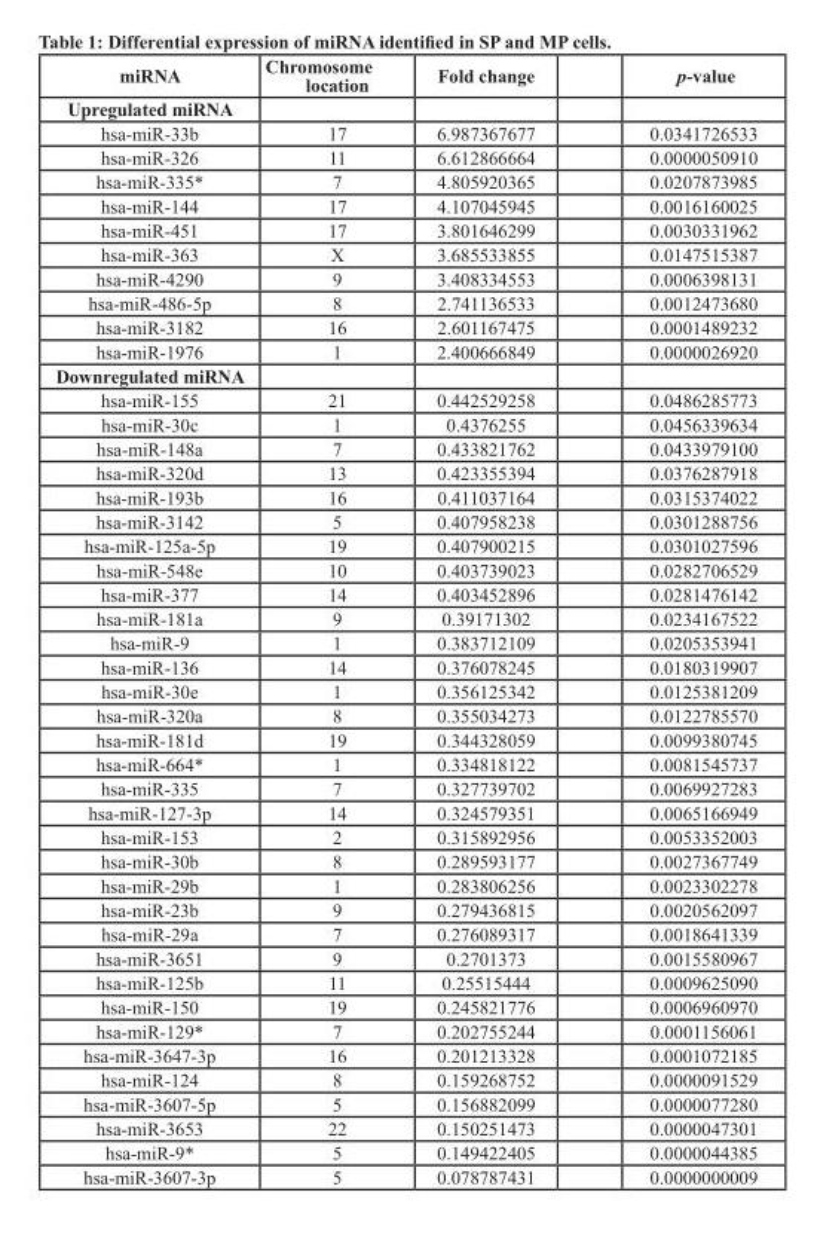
<table><thead><tr><td>miRNA</td><td>Chromosome location</td><td>Fold change</td><td>p-value</td></tr></thead><tbody><tr><td colspan="4">Upregulated miRNA</td></tr><tr><td>hsa-miR-33b</td><td>17</td><td>6.987367677</td><td>0.0341726533</td></tr><tr><td>hsa-miR-326</td><td>11</td><td>6.612866664</td><td>0.0000050910</td></tr><tr><td>hsa-miR-335*</td><td>7</td><td>4.805920365</td><td>0.0207873985</td></tr><tr><td>hsa-miR-144</td><td>17</td><td>4.107045945</td><td>0.0016160025</td></tr><tr><td>hsa-miR-451</td><td>17</td><td>3.801646299</td><td>0.0030331962</td></tr><tr><td>hsa-miR-363</td><td>X</td><td>3.685533855</td><td>0.0147515387</td></tr><tr><td>hsa-miR-4290</td><td>9</td><td>3.408334553</td><td>0.0006398131</td></tr><tr><td>hsa-miR-486-5p</td><td>8</td><td>2.741136533</td><td>0.0012473680</td></tr><tr><td>hsa-miR-3182</td><td>16</td><td>2.601167475</td><td>0.0001489232</td></tr><tr><td>hsa-miR-1976</td><td>1</td><td>2.400666849</td><td>0.0000026920</td></tr><tr><td colspan="4">Downregulated miRNA</td></tr><tr><td>hsa-miR-155</td><td>21</td><td>0.442529258</td><td>0.0486285773</td></tr><tr><td>hsa-miR-30c</td><td>1</td><td>0.4376255</td><td>0.0456339634</td></tr><tr><td>hsa-miR-148a</td><td>7</td><td>0.433821762</td><td>0.0433979100</td></tr><tr><td>hsa-miR-320d</td><td>13</td><td>0.423355394</td><td>0.0376287918</td></tr><tr><td>hsa-miR-193b</td><td>16</td><td>0.411037164</td><td>0.0315374022</td></tr><tr><td>hsa-miR-3142</td><td>5</td><td>0.407958238</td><td>0.0301288756</td></tr><tr><td>hsa-miR-125a-5p</td><td>19</td><td>0.407900215</td><td>0.0301027596</td></tr><tr><td>hsa-miR-548e</td><td>10</td><td>0.403739023</td><td>0.0282706529</td></tr><tr><td>hsa-miR-377</td><td>14</td><td>0.403452896</td><td>0.0281476142</td></tr><tr><td>hsa-miR-181a</td><td>9</td><td>0.39171302</td><td>0.0234167522</td></tr><tr><td>hsa-miR-9</td><td>1</td><td>0.383712109</td><td>0.0205353941</td></tr><tr><td>hsa-miR-136</td><td>14</td><td>0.376078245</td><td>0.0180319907</td></tr><tr><td>hsa-miR-30e</td><td>1</td><td>0.356125342</td><td>0.0125381209</td></tr><tr><td>hsa-miR-320a</td><td>8</td><td>0.355034273</td><td>0.0122785570</td></tr><tr><td>hsa-miR-181d</td><td>19</td><td>0.344328059</td><td>0.0099380745</td></tr><tr><td>hsa-miR-664*</td><td>1</td><td>0.334818122</td><td>0.0081545737</td></tr><tr><td>hsa-miR-335</td><td>7</td><td>0.327739702</td><td>0.0069927283</td></tr><tr><td>hsa-miR-127-3p</td><td>14</td><td>0.324579351</td><td>0.0065166949</td></tr><tr><td>hsa-miR-153</td><td>2</td><td>0.315892956</td><td>0.0053352003</td></tr><tr><td>hsa-miR-30b</td><td>8</td><td>0.289593177</td><td>0.0027367749</td></tr><tr><td>hsa-miR-29b</td><td>1</td><td>0.283806256</td><td>0.0023302278</td></tr><tr><td>hsa-miR-23b</td><td>9</td><td>0.279436815</td><td>0.0020562097</td></tr><tr><td>hsa-miR-29a</td><td>7</td><td>0.276089317</td><td>0.0018641339</td></tr><tr><td>hsa-miR-3651</td><td>9</td><td>0.2701373</td><td>0.0015580967</td></tr><tr><td>hsa-miR-125b</td><td>11</td><td>0.25515444</td><td>0.0009625090</td></tr><tr><td>hsa-miR-150</td><td>19</td><td>0.245821776</td><td>0.0006960970</td></tr><tr><td>hsa-miR-129*</td><td>7</td><td>0.202755244</td><td>0.0001156061</td></tr><tr><td>hsa-miR-3647-3p</td><td>16</td><td>0.201213328</td><td>0.0001072185</td></tr><tr><td>hsa-miR-124</td><td>8</td><td>0.159268752</td><td>0.0000091529</td></tr><tr><td>hsa-miR-3607-5p</td><td>5</td><td>0.156882099</td><td>0.0000077280</td></tr><tr><td>hsa-miR-3653</td><td>22</td><td>0.150251473</td><td>0.0000047301</td></tr><tr><td>hsa-miR-9*</td><td>5</td><td>0.149422405</td><td>0.0000044385</td></tr><tr><td>hsa-miR-3607-3p</td><td>5</td><td>0.078787431</td><td>0.0000000009</td></tr></tbody></table>